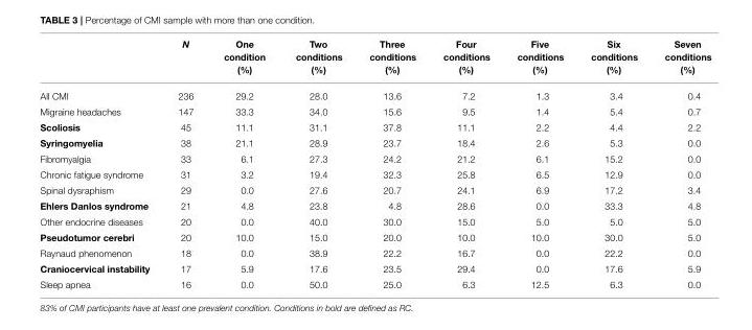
<table><thead><tr><td></td><td>N</td><td>One condition (%)</td><td>Two conditions (%)</td><td>Three conditions (%)</td><td>Four conditions (%)</td><td>Five conditions (%)</td><td>Six conditions (%)</td><td>Seven conditions (%)</td></tr></thead><tbody><tr><td>All CMI</td><td>236</td><td>29.2</td><td>28.0</td><td>13.6</td><td>7.2</td><td>1.3</td><td>3.4</td><td>0.4</td></tr><tr><td>Migraine headaches</td><td>147</td><td>33.3</td><td>34.0</td><td>15.6</td><td>9.5</td><td>1.4</td><td>5.4</td><td>0.7</td></tr><tr><td>Scoliosis</td><td>45</td><td>11.1</td><td>31.1</td><td>37.8</td><td>11.1</td><td>2.2</td><td>4.4</td><td>2.2</td></tr><tr><td>Syringomyelia</td><td>38</td><td>21.1</td><td>28.9</td><td>23.7</td><td>18.4</td><td>2.6</td><td>5.3</td><td>0.0</td></tr><tr><td>Fibromyalgia</td><td>33</td><td>6.1</td><td>27.3</td><td>24.2</td><td>21.2</td><td>6.1</td><td>15.2</td><td>0.0</td></tr><tr><td>Chronic fatigue syndrome</td><td>31</td><td>3.2</td><td>19.4</td><td>32.3</td><td>25.8</td><td>6.5</td><td>12.9</td><td>0.0</td></tr><tr><td>Spinal dysraphism</td><td>29</td><td>0.0</td><td>27.6</td><td>20.7</td><td>24.1</td><td>6.9</td><td>17.2</td><td>3.4</td></tr><tr><td>Ehlers Danlos syndrome</td><td>21</td><td>4.8</td><td>23.8</td><td>4.8</td><td>28.6</td><td>0.0</td><td>33.3</td><td>4.8</td></tr><tr><td>Other endocrine diseases</td><td>20</td><td>0.0</td><td>40.0</td><td>30.0</td><td>15.0</td><td>5.0</td><td>5.0</td><td>5.0</td></tr><tr><td>Pseudotumor cerebri</td><td>20</td><td>10.0</td><td>15.0</td><td>20.0</td><td>10.0</td><td>10.0</td><td>30.0</td><td>5.0</td></tr><tr><td>Raynaud phenomenon</td><td>18</td><td>0.0</td><td>38.9</td><td>22.2</td><td>16.7</td><td>0.0</td><td>22.2</td><td>0.0</td></tr><tr><td>Craniocervical instability</td><td>17</td><td>5.9</td><td>17.6</td><td>23.5</td><td>29.4</td><td>0.0</td><td>17.6</td><td>5.9</td></tr><tr><td>Sleep apnea</td><td>16</td><td>0.0</td><td>50.0</td><td>25.0</td><td>6.3</td><td>12.5</td><td>6.3</td><td>0.0</td></tr></tbody></table>